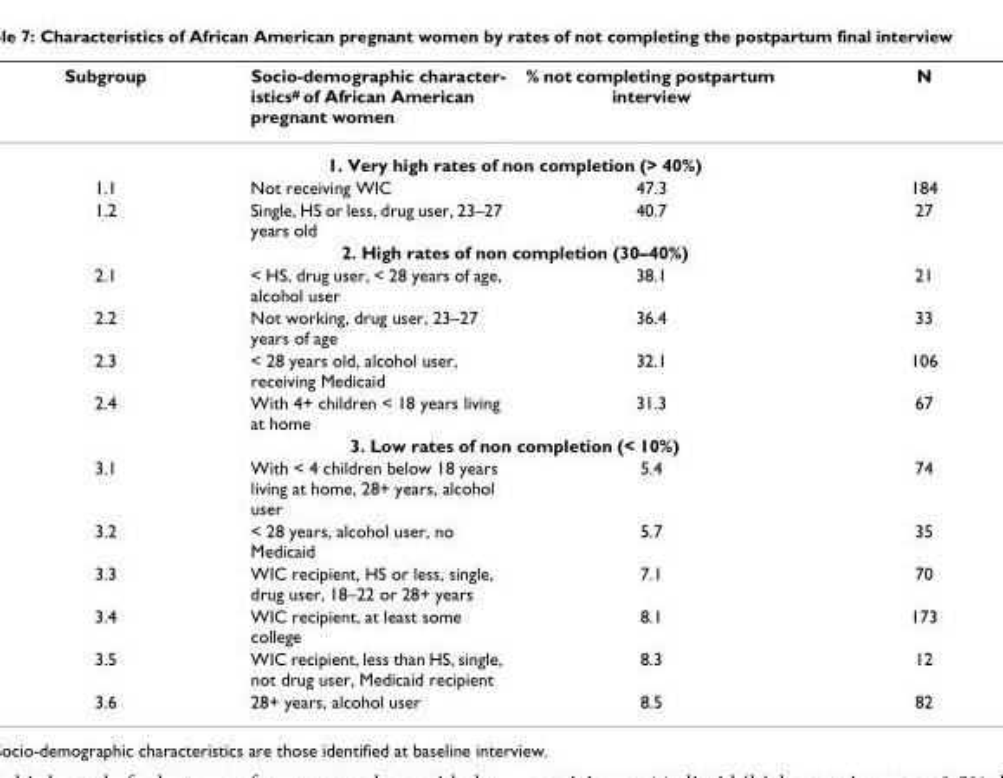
<table><thead><tr><td>Subgroup</td><td>Socio-demographic character- istics# of African American pregnant women</td><td>% not completing postpartum interview</td><td>N</td></tr></thead><tbody><tr><td colspan="4">1. Very high rates of non completion (&gt; 40%)</td></tr><tr><td>1.1</td><td>Not receiving WIC</td><td>47.3</td><td>184</td></tr><tr><td>1.2</td><td>Single, HS or less, drug user, 23–27 years old</td><td>40.7</td><td>27</td></tr><tr><td colspan="4">2. High rates of non completion (30–40%)</td></tr><tr><td>2.1</td><td>&lt; HS, drug user, &lt; 28 years of age, alcohol user</td><td>38.1</td><td>21</td></tr><tr><td>2.2</td><td>Not working, drug user, 23–27 years of age</td><td>36.4</td><td>33</td></tr><tr><td>2.3</td><td>&lt; 28 years old, alcohol user, receiving Medicaid</td><td>32.1</td><td>106</td></tr><tr><td>2.4</td><td>With 4+ children &lt; 18 years living at home</td><td>31.3</td><td>67</td></tr><tr><td colspan="4">3. Low rates of non completion (&lt; 10%)</td></tr><tr><td>3.1</td><td>With &lt; 4 children below 18 years living at home, 28+ years, alcohol user</td><td>5.4</td><td>74</td></tr><tr><td>3.2</td><td>&lt; 28 years, alcohol user, no Medicaid</td><td>5.7</td><td>35</td></tr><tr><td>3.3</td><td>WIC recipient, HS or less, single, drug user, 18–22 or 28+ years</td><td>7.1</td><td>70</td></tr><tr><td>3.4</td><td>WIC recipient, at least some college</td><td>8.1</td><td>173</td></tr><tr><td>3.5</td><td>WIC recipient, less than HS, single, not drug user, Medicaid recipient</td><td>8.3</td><td>12</td></tr><tr><td>3.6</td><td>28+ years, alcohol user</td><td>8.5</td><td>82</td></tr></tbody></table>